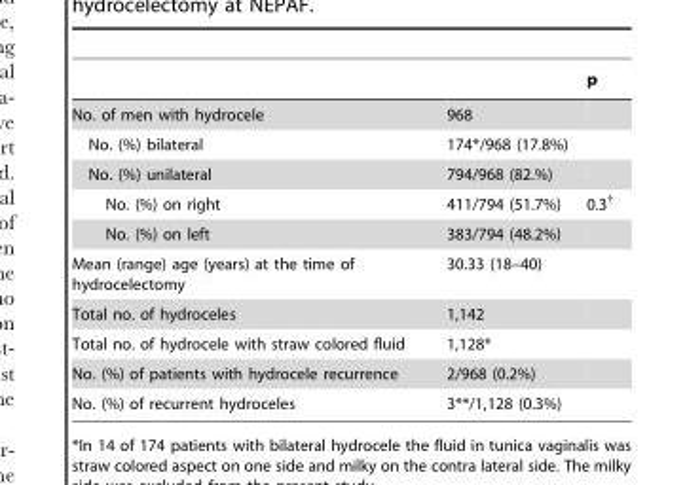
<table><thead><tr><td></td><td></td><td>p</td></tr></thead><tbody><tr><td>No. of men with hydrocele</td><td>968</td><td></td></tr><tr><td>No. (%) bilateral</td><td>174*/968 (17.8%)</td><td></td></tr><tr><td>No. (%) unilateral</td><td>794/968 (82.%)</td><td></td></tr><tr><td>No. (%) on right</td><td>411/794 (51.7%)</td><td>0.3†</td></tr><tr><td>No. (%) on left</td><td>383/794 (48.2%)</td><td></td></tr><tr><td>Mean (range) age (years) at the time of hydrocelectomy</td><td>30.33 (18–40)</td><td></td></tr><tr><td>Total no. of hydroceles</td><td>1,142</td><td></td></tr><tr><td>Total no. of hydrocele with straw colored fluid</td><td>1,128*</td><td></td></tr><tr><td>No. (%) of patients with hydrocele recurrence</td><td>2/968 (0.2%)</td><td></td></tr><tr><td>No. (%) of recurrent hydroceles</td><td>3**/1,128 (0.3%)</td><td></td></tr></tbody></table>